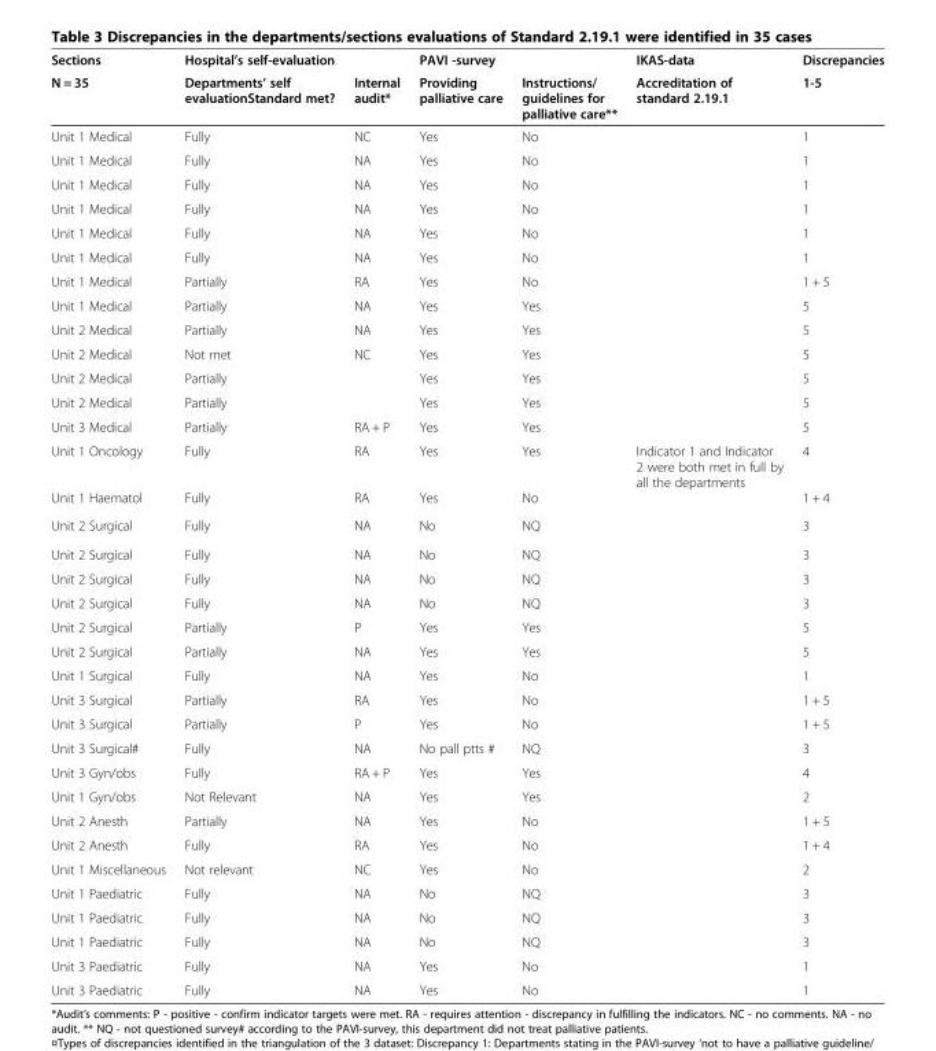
<table><thead><tr><td rowspan="2">Sections N = 35</td><td rowspan="2">Hospital’s self-evaluation Departments’ self evaluationStandard met?</td><td rowspan="2">Internal audit*</td><td rowspan="2">PAVI -survey Providing palliative care</td><td rowspan="2">Instructions/ guidelines for palliative care**</td><td rowspan="2">IKAS-data Accreditation of standard 2.19.1</td><td rowspan="2">Discrepancies 1-5</td></tr><tr></tr></thead><tbody><tr><td>Unit 1 Medical</td><td>Fully</td><td>NC</td><td>Yes</td><td>No</td><td></td><td>1</td></tr><tr><td>Unit 1 Medical</td><td>Fully</td><td>NA</td><td>Yes</td><td>No</td><td></td><td>1</td></tr><tr><td>Unit 1 Medical</td><td>Fully</td><td>NA</td><td>Yes</td><td>No</td><td></td><td>1</td></tr><tr><td>Unit 1 Medical</td><td>Fully</td><td>NA</td><td>Yes</td><td>No</td><td></td><td>1</td></tr><tr><td>Unit 1 Medical</td><td>Fully</td><td>NA</td><td>Yes</td><td>No</td><td></td><td>1</td></tr><tr><td>Unit 1 Medical</td><td>Fully</td><td>NA</td><td>Yes</td><td>No</td><td></td><td>1</td></tr><tr><td>Unit 1 Medical</td><td>Partially</td><td>RA</td><td>Yes</td><td>No</td><td></td><td>1 + 5</td></tr><tr><td>Unit 1 Medical</td><td>Partially</td><td>NA</td><td>Yes</td><td>Yes</td><td></td><td>5</td></tr><tr><td>Unit 2 Medical</td><td>Partially</td><td>NA</td><td>Yes</td><td>Yes</td><td></td><td>5</td></tr><tr><td>Unit 2 Medical</td><td>Not met</td><td>NC</td><td>Yes</td><td>Yes</td><td></td><td>5</td></tr><tr><td>Unit 2 Medical</td><td>Partially</td><td></td><td>Yes</td><td>Yes</td><td></td><td>5</td></tr><tr><td>Unit 2 Medical</td><td>Partially</td><td></td><td>Yes</td><td>Yes</td><td></td><td>5</td></tr><tr><td>Unit 3 Medical</td><td>Partially</td><td>RA + P</td><td>Yes</td><td>Yes</td><td></td><td>5</td></tr><tr><td>Unit 1 Oncology</td><td>Fully</td><td>RA</td><td>Yes</td><td>Yes</td><td>Indicator 1 and Indicator 2 were both met in full by all the departments</td><td>4</td></tr><tr><td>Unit 1 Haematol</td><td>Fully</td><td>RA</td><td>Yes</td><td>No</td><td></td><td>1 + 4</td></tr><tr><td>Unit 2 Surgical</td><td>Fully</td><td>NA</td><td>No</td><td>NQ</td><td></td><td>3</td></tr><tr><td>Unit 2 Surgical</td><td>Fully</td><td>NA</td><td>No</td><td>NQ</td><td></td><td>3</td></tr><tr><td>Unit 2 Surgical</td><td>Fully</td><td>NA</td><td>No</td><td>NQ</td><td></td><td>3</td></tr><tr><td>Unit 2 Surgical</td><td>Fully</td><td>NA</td><td>No</td><td>NQ</td><td></td><td>3</td></tr><tr><td>Unit 2 Surgical</td><td>Partially</td><td>P</td><td>Yes</td><td>Yes</td><td></td><td>5</td></tr><tr><td>Unit 2 Surgical</td><td>Partially</td><td>NA</td><td>Yes</td><td>Yes</td><td></td><td>5</td></tr><tr><td>Unit 1 Surgical</td><td>Fully</td><td>NA</td><td>Yes</td><td>No</td><td></td><td>1</td></tr><tr><td>Unit 3 Surgical</td><td>Partially</td><td>RA</td><td>Yes</td><td>No</td><td></td><td>1 + 5</td></tr><tr><td>Unit 3 Surgical</td><td>Partially</td><td>P</td><td>Yes</td><td>No</td><td></td><td>1 + 5</td></tr><tr><td>Unit 3 Surgical#</td><td>Fully</td><td>NA</td><td>No pall ptts #</td><td>NQ</td><td></td><td>3</td></tr><tr><td>Unit 3 Gyn/obs</td><td>Fully</td><td>RA + P</td><td>Yes</td><td>Yes</td><td></td><td>4</td></tr><tr><td>Unit 1 Gyn/obs</td><td>Not Relevant</td><td>NA</td><td>Yes</td><td>Yes</td><td></td><td>2</td></tr><tr><td>Unit 2 Anesth</td><td>Partially</td><td>NA</td><td>Yes</td><td>No</td><td></td><td>1 + 5</td></tr><tr><td>Unit 2 Anesth</td><td>Fully</td><td>RA</td><td>Yes</td><td>No</td><td></td><td>1 + 4</td></tr><tr><td>Unit 1 Miscellaneous</td><td>Not relevant</td><td>NC</td><td>Yes</td><td>No</td><td></td><td>2</td></tr><tr><td>Unit 1 Paediatric</td><td>Fully</td><td>NA</td><td>No</td><td>NQ</td><td></td><td>3</td></tr><tr><td>Unit 1 Paediatric</td><td>Fully</td><td>NA</td><td>No</td><td>NQ</td><td></td><td>3</td></tr><tr><td>Unit 1 Paediatric</td><td>Fully</td><td>NA</td><td>No</td><td>NQ</td><td></td><td>3</td></tr><tr><td>Unit 3 Paediatric</td><td>Fully</td><td>NA</td><td>Yes</td><td>No</td><td></td><td>1</td></tr><tr><td>Unit 3 Paediatric</td><td>Fully</td><td>NA</td><td>Yes</td><td>No</td><td></td><td>1</td></tr></tbody></table>